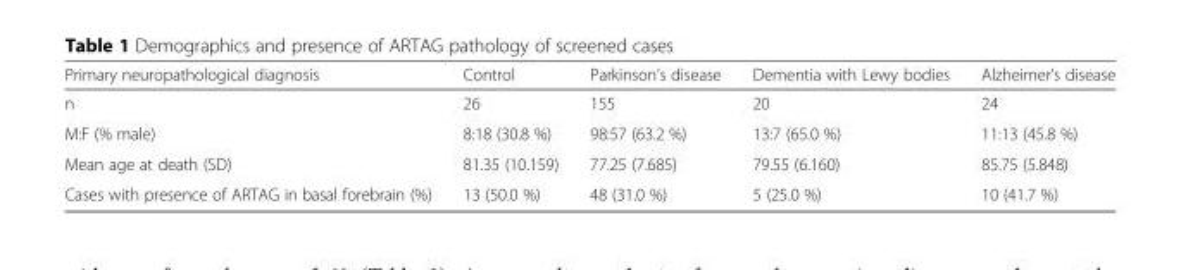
<table><thead><tr><td>Primary neuropathological diagnosis</td><td>Control</td><td>Parkinson’s disease</td><td>Dementia with Lewy bodies</td><td>Alzheimer’s disease</td></tr></thead><tbody><tr><td>n</td><td>26</td><td>155</td><td>20</td><td>24</td></tr><tr><td>M:F (% male)</td><td>8:18 (30.8 %)</td><td>98:57 (63.2 %)</td><td>13:7 (65.0 %)</td><td>11:13 (45.8 %)</td></tr><tr><td>Mean age at death (SD)</td><td>81.35 (10.159)</td><td>77.25 (7.685)</td><td>79.55 (6.160)</td><td>85.75 (5.848)</td></tr><tr><td>Cases with presence of ARTAG in basal forebrain (%)</td><td>13 (50.0 %)</td><td>48 (31.0 %)</td><td>5 (25.0 %)</td><td>10 (41.7 %)</td></tr></tbody></table>